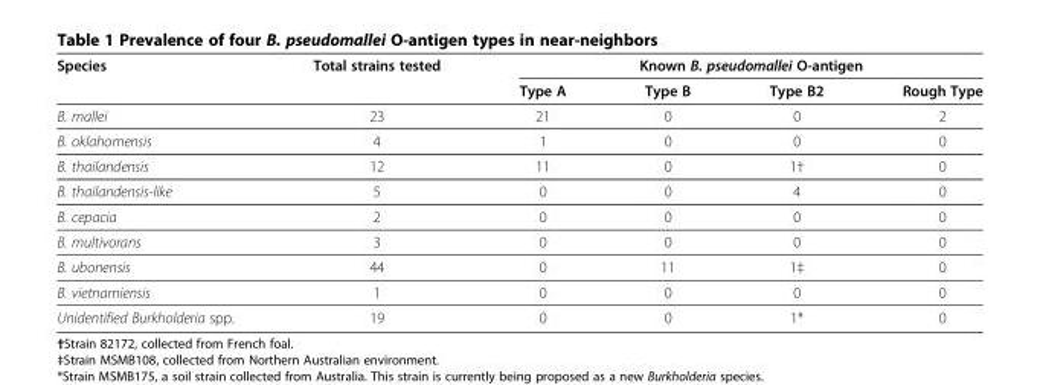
<table><thead><tr><td rowspan="2">Species</td><td rowspan="2">Total strains tested</td><td colspan="4">Known B. pseudomallei O-antigen</td></tr><tr><td>Type A</td><td>Type B</td><td>Type B2</td><td>Rough Type</td></tr></thead><tbody><tr><td>B. mallei</td><td>23</td><td>21</td><td>0</td><td>0</td><td>2</td></tr><tr><td>B. oklahomensis</td><td>4</td><td>1</td><td>0</td><td>0</td><td>0</td></tr><tr><td>B. thailandensis</td><td>12</td><td>11</td><td>0</td><td>1†</td><td>0</td></tr><tr><td>B. thailandensis-like</td><td>5</td><td>0</td><td>0</td><td>4</td><td>0</td></tr><tr><td>B. cepacia</td><td>2</td><td>0</td><td>0</td><td>0</td><td>0</td></tr><tr><td>B. multivorans</td><td>3</td><td>0</td><td>0</td><td>0</td><td>0</td></tr><tr><td>B. ubonensis</td><td>44</td><td>0</td><td>11</td><td>1‡</td><td>0</td></tr><tr><td>B. vietnamiensis</td><td>1</td><td>0</td><td>0</td><td>0</td><td>0</td></tr><tr><td>Unidentified Burkholderia spp.</td><td>19</td><td>0</td><td>0</td><td>1*</td><td>0</td></tr></tbody></table>